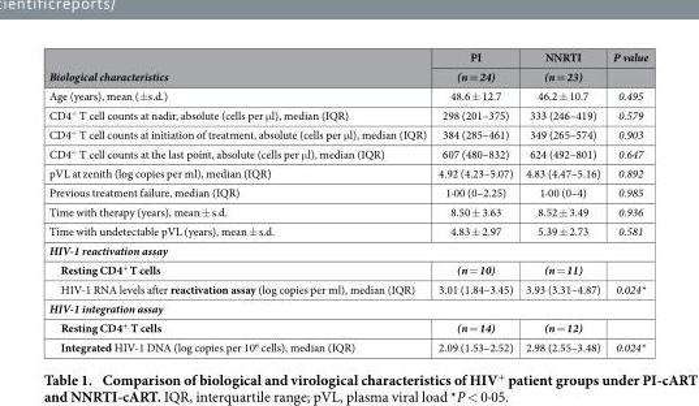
<table><thead><tr><td rowspan="2">Biological characteristics</td><td rowspan="2">PI (n = 24)</td><td rowspan="2">NNRTI (n = 23)</td><td rowspan="2">P value</td></tr><tr></tr></thead><tbody><tr><td>Age (years), mean (± s.d.)</td><td>48.6 ± 12.7</td><td>46.2 ± 10.7</td><td>0.495</td></tr><tr><td>CD4<sup>+</sup> T cell counts at nadir, absolute (cells per μ l), median (IQR)</td><td>298 (201–375)</td><td>333 (246–419)</td><td>0.579</td></tr><tr><td>CD4<sup>+</sup> T cell counts at initiation of treatment, absolute (cells per μ l), median (IQR)</td><td>384 (285–461)</td><td>349 (265–574)</td><td>0.903</td></tr><tr><td>CD4<sup>+</sup> T cell counts at the last point, absolute (cells per μ l), median (IQR)</td><td>607 (480–832)</td><td>624 (492–801)</td><td>0.647</td></tr><tr><td>pVL at zenith (log copies per ml), median (IQR)</td><td>4.92 (4.23–5.07)</td><td>4.83 (4.47–5.16)</td><td>0.892</td></tr><tr><td>Previous treatment failure, median (IQR)</td><td>1·00 (0–2.25)</td><td>1·00 (0–4)</td><td>0.985</td></tr><tr><td>Time with therapy (years), mean ± s.d.</td><td>8.50 ± 3.63</td><td>8.52 ± 3.49</td><td>0.936</td></tr><tr><td>Time with undetectable pVL (years), mean ± s.d.</td><td>4.83 ± 2.97</td><td>5.39 ± 2.73</td><td>0.581</td></tr><tr><td colspan="4">HIV-1 reactivation assay</td></tr><tr><td>Resting CD4<sup>+</sup> T cells</td><td>(n = 10)</td><td>(n = 11)</td><td></td></tr><tr><td>HIV-1 RNA levels after reactivation assay (log copies per ml), median (IQR)</td><td>3.01 (1.84–3.45)</td><td>3.93 (3.31–4.87)</td><td>0.024*</td></tr><tr><td colspan="4">HIV-1 integration assay</td></tr><tr><td>Resting CD4<sup>+</sup> T cells</td><td>(n = 14)</td><td>(n = 12)</td><td></td></tr><tr><td>Integrated HIV-1 DNA (log copies per 10<sup>6</sup> cells), median (IQR)</td><td>2.09 (1.53–2.52)</td><td>2.98 (2.55–3.48)</td><td>0.024*</td></tr></tbody></table>